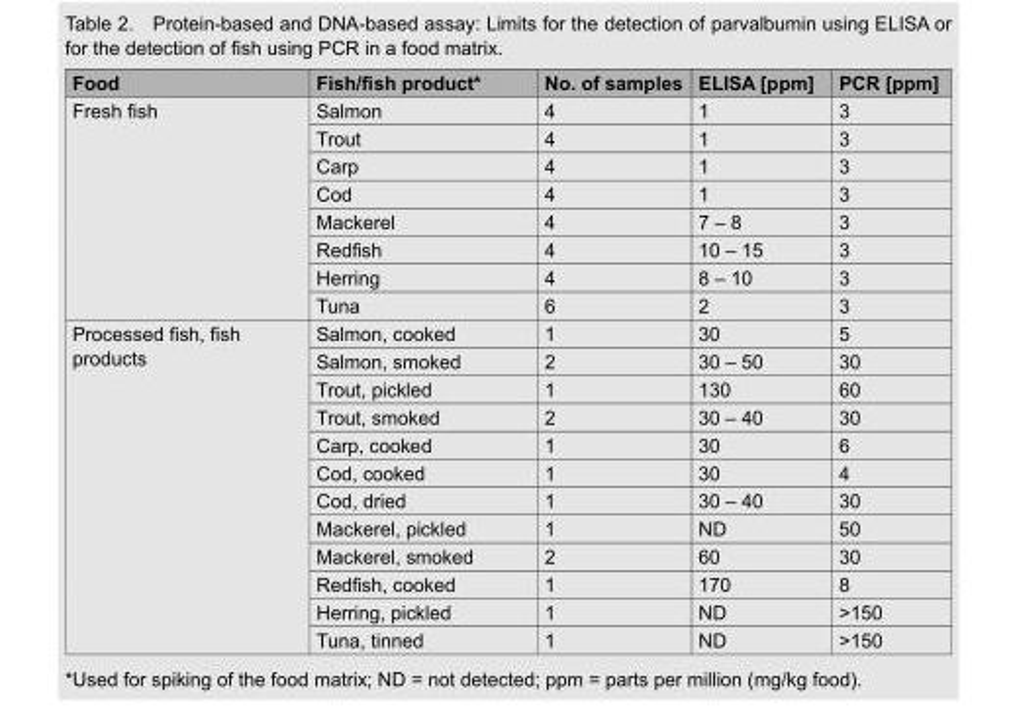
<table><thead><tr><td>Food</td><td>Fish/fish product*</td><td>No. of samples</td><td>ELISA [ppm]</td><td>PCR [ppm]</td></tr></thead><tbody><tr><td rowspan="8">Fresh fish</td><td>Salmon</td><td>4</td><td>1</td><td>3</td></tr><tr><td>Trout</td><td>4</td><td>1</td><td>3</td></tr><tr><td>Carp</td><td>4</td><td>1</td><td>3</td></tr><tr><td>Cod</td><td>4</td><td>1</td><td>3</td></tr><tr><td>Mackerel</td><td>4</td><td>7 – 8</td><td>3</td></tr><tr><td>Redfish</td><td>4</td><td>10 – 15</td><td>3</td></tr><tr><td>Herring</td><td>4</td><td>8 – 10</td><td>3</td></tr><tr><td>Tuna</td><td>6</td><td>2</td><td>3</td></tr><tr><td rowspan="12">Processed fish, fish products</td><td>Salmon, cooked</td><td>1</td><td>30</td><td>5</td></tr><tr><td>Salmon, smoked</td><td>2</td><td>30 – 50</td><td>30</td></tr><tr><td>Trout, pickled</td><td>1</td><td>130</td><td>60</td></tr><tr><td>Trout, smoked</td><td>2</td><td>30 – 40</td><td>30</td></tr><tr><td>Carp, cooked</td><td>1</td><td>30</td><td>6</td></tr><tr><td>Cod, cooked</td><td>1</td><td>30</td><td>4</td></tr><tr><td>Cod, dried</td><td>1</td><td>30 – 40</td><td>30</td></tr><tr><td>Mackerel, pickled</td><td>1</td><td>ND</td><td>50</td></tr><tr><td>Mackerel, smoked</td><td>2</td><td>60</td><td>30</td></tr><tr><td>Redfish, cooked</td><td>1</td><td>170</td><td>8</td></tr><tr><td>Herring, pickled</td><td>1</td><td>ND</td><td>&gt;150</td></tr><tr><td>Tuna, tinned</td><td>1</td><td>ND</td><td>&gt;150</td></tr></tbody></table>